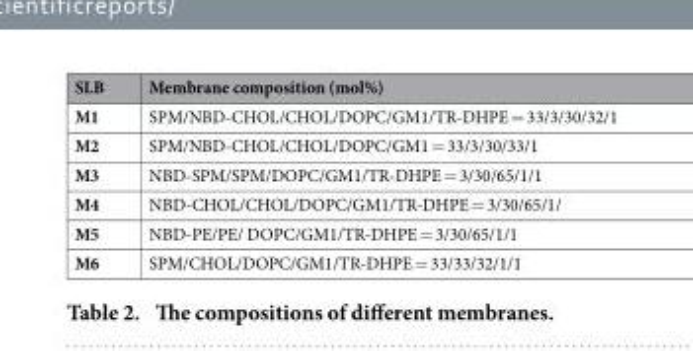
<table><thead><tr><td>SLB</td><td>Membrane composition (mol%)</td></tr></thead><tbody><tr><td>M1</td><td>SPM/NBD-CHOL/CHOL/DOPC/GM1/TR-DHPE = 33/3/30/32/1</td></tr><tr><td>M2</td><td>SPM/NBD-CHOL/CHOL/DOPC/GM1 = 33/3/30/33/1</td></tr><tr><td>M3</td><td>NBD-SPM/SPM/DOPC/GM1/TR-DHPE = 3/30/65/1/1</td></tr><tr><td>M4</td><td>NBD-CHOL/CHOL/DOPC/GM1/TR-DHPE = 3/30/65/1/</td></tr><tr><td>M5</td><td>NBD-PE/PE/ DOPC/GM1/TR-DHPE = 3/30/65/1/1</td></tr><tr><td>M6</td><td>SPM/CHOL/DOPC/GM1/TR-DHPE = 33/33/32/1/1</td></tr></tbody></table>